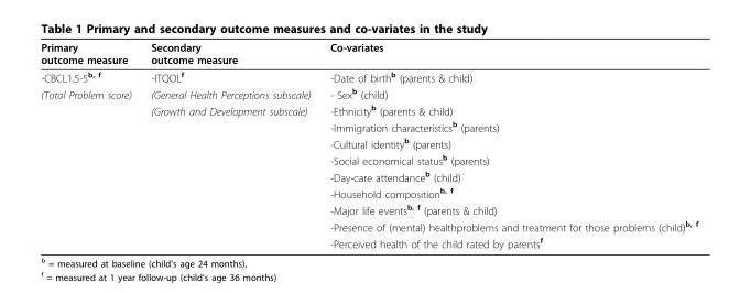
<table><thead><tr><td>Primary outcome measure</td><td>Secondary outcome measure</td><td>Co-variates</td></tr></thead><tbody><tr><td>-CBCL1,5-5<sup>b, f</sup></td><td>-ITQOL<sup>f</sup></td><td>-Date of birth<sup>b</sup> (parents &amp; child)</td></tr><tr><td rowspan="10">(Total Problem score)</td><td>(General Health Perceptions subscale)</td><td>- Sex<sup>b</sup> (child)</td></tr><tr><td>(Growth and Development subscale)</td><td>-Ethnicity<sup>b</sup> (parents &amp; child)</td></tr><tr><td></td><td>-Immigration characteristics<sup>b</sup> (parents)</td></tr><tr><td></td><td>-Cultural identity<sup>b</sup> (parents)</td></tr><tr><td></td><td>-Social economical status<sup>b</sup> (parents)</td></tr><tr><td></td><td>-Day-care attendance<sup>b</sup> (child)</td></tr><tr><td></td><td>-Household composition<sup>b, f</sup></td></tr><tr><td></td><td>-Major life events<sup>b, f</sup> (parents &amp; child)</td></tr><tr><td></td><td>-Presence of (mental) healthproblems and treatment for those problems (child)b, f</td></tr><tr><td></td><td>-Perceived health of the child rated by parents<sup>f</sup></td></tr></tbody></table>